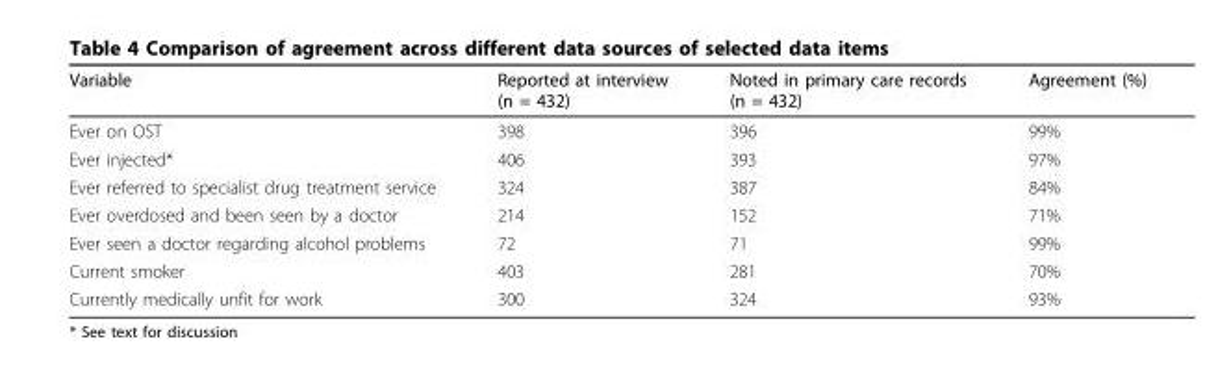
<table><thead><tr><td>Variable</td><td>Reported at interview (n = 432)</td><td>Noted in primary care records (n = 432)</td><td>Agreement (%)</td></tr></thead><tbody><tr><td>Ever on OST</td><td>398</td><td>396</td><td>99%</td></tr><tr><td>Ever injected*</td><td>406</td><td>393</td><td>97%</td></tr><tr><td>Ever referred to specialist drug treatment service</td><td>324</td><td>387</td><td>84%</td></tr><tr><td>Ever overdosed and been seen by a doctor</td><td>214</td><td>152</td><td>71%</td></tr><tr><td>Ever seen a doctor regarding alcohol problems</td><td>72</td><td>71</td><td>99%</td></tr><tr><td>Current smoker</td><td>403</td><td>281</td><td>70%</td></tr><tr><td>Currently medically unfit for work</td><td>300</td><td>324</td><td>93%</td></tr></tbody></table>